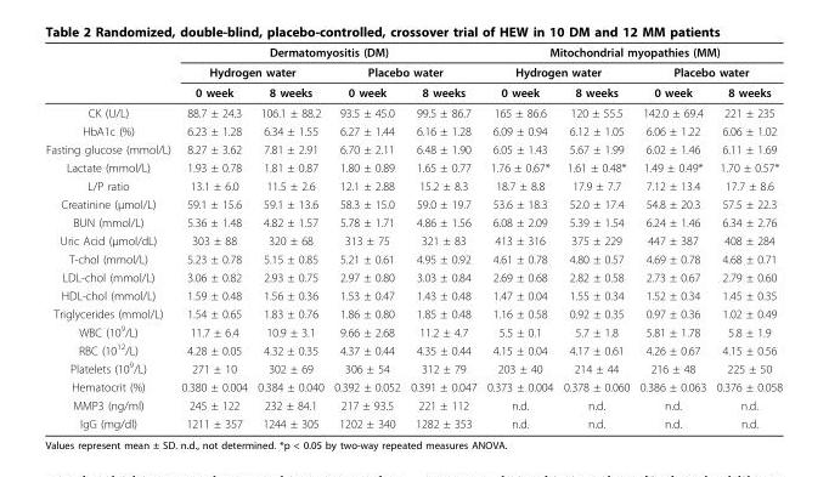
<table><thead><tr><td rowspan="3"></td><td colspan="4">Dermatomyositis (DM)</td><td colspan="4">Mitochondrial myopathies (MM)</td></tr><tr><td colspan="2">Hydrogen water</td><td colspan="2">Placebo water</td><td colspan="2">Hydrogen water</td><td colspan="2">Placebo water</td></tr><tr><td>0 week</td><td>8 weeks</td><td>0 week</td><td>8 weeks</td><td>0 week</td><td>8 weeks</td><td>0 week</td><td>8 weeks</td></tr></thead><tbody><tr><td>CK (U/L)</td><td>88.7 ± 24.3</td><td>106.1 ± 88.2</td><td>93.5 ± 45.0</td><td>99.5 ± 86.7</td><td>165 ± 86.6</td><td>120 ± 55.5</td><td>142.0 ± 69.4</td><td>221 ± 235</td></tr><tr><td>HbA1c (%)</td><td>6.23 ± 1.28</td><td>6.34 ± 1.55</td><td>6.27 ± 1.44</td><td>6.16 ± 1.28</td><td>6.09 ± 0.94</td><td>6.12 ± 1.05</td><td>6.06 ± 1.22</td><td>6.06 ± 1.02</td></tr><tr><td>Fasting glucose (mmol/L)</td><td>8.27 ± 3.62</td><td>7.81 ± 2.91</td><td>6.70 ± 2.11</td><td>6.48 ± 1.90</td><td>6.05 ± 1.43</td><td>5.67 ± 1.99</td><td>6.02 ± 1.46</td><td>6.11 ± 1.69</td></tr><tr><td>Lactate (mmol/L)</td><td>1.93 ± 0.78</td><td>1.81 ± 0.87</td><td>1.80 ± 0.89</td><td>1.65 ± 0.77</td><td>1.76 ± 0.67*</td><td>1.61 ± 0.48*</td><td>1.49 ± 0.49*</td><td>1.70 ± 0.57*</td></tr><tr><td>L/P ratio</td><td>13.1 ± 6.0</td><td>11.5 ± 2.6</td><td>12.1 ± 2.88</td><td>15.2 ± 8.3</td><td>18.7 ± 8.8</td><td>17.9 ± 7.7</td><td>7.12 ± 13.4</td><td>17.7 ± 8.6</td></tr><tr><td>Creatinine (μmol/L)</td><td>59.1 ± 15.6</td><td>59.1 ± 13.6</td><td>58.3 ± 15.0</td><td>59.0 ± 19.7</td><td>53.6 ± 18.3</td><td>52.0 ± 17.4</td><td>54.8 ± 20.3</td><td>57.5 ± 22.3</td></tr><tr><td>BUN (mmol/L)</td><td>5.36 ± 1.48</td><td>4.82 ± 1.57</td><td>5.78 ± 1.71</td><td>4.86 ± 1.56</td><td>6.08 ± 2.09</td><td>5.39 ± 1.54</td><td>6.24 ± 1.46</td><td>6.34 ± 2.76</td></tr><tr><td>Uric Acid (μmol/dL)</td><td>303 ± 88</td><td>320 ± 68</td><td>313 ± 75</td><td>321 ± 83</td><td>413 ± 316</td><td>375 ± 229</td><td>447 ± 387</td><td>408 ± 284</td></tr><tr><td>T-chol (mmol/L)</td><td>5.23 ± 0.78</td><td>5.15 ± 0.85</td><td>5.21 ± 0.61</td><td>4.95 ± 0.92</td><td>4.61 ± 0.78</td><td>4.80 ± 0.57</td><td>4.69 ± 0.78</td><td>4.68 ± 0.71</td></tr><tr><td>LDL-chol (mmol/L)</td><td>3.06 ± 0.82</td><td>2.93 ± 0.75</td><td>2.97 ± 0.80</td><td>3.03 ± 0.84</td><td>2.69 ± 0.68</td><td>2.82 ± 0.58</td><td>2.73 ± 0.67</td><td>2.79 ± 0.60</td></tr><tr><td>HDL-chol (mmol/L)</td><td>1.59 ± 0.48</td><td>1.56 ± 0.36</td><td>1.53 ± 0.47</td><td>1.43 ± 0.48</td><td>1.47 ± 0.04</td><td>1.55 ± 0.34</td><td>1.52 ± 0.34</td><td>1.45 ± 0.35</td></tr><tr><td>Triglycerides (mmol/L)</td><td>1.54 ± 0.65</td><td>1.83 ± 0.76</td><td>1.86 ± 0.80</td><td>1.85 ± 0.48</td><td>1.16 ± 0.58</td><td>0.92 ± 0.35</td><td>0.97 ± 0.36</td><td>1.02 ± 0.49</td></tr><tr><td>WBC (10<sup>9</sup>/L)</td><td>11.7 ± 6.4</td><td>10.9 ± 3.1</td><td>9.66 ± 2.68</td><td>11.2 ± 4.7</td><td>5.5 ± 0.1</td><td>5.7 ± 1.8</td><td>5.81 ± 1.78</td><td>5.8 ± 1.9</td></tr><tr><td>RBC (10<sup>12</sup>/L)</td><td>4.28 ± 0.05</td><td>4.32 ± 0.35</td><td>4.37 ± 0.44</td><td>4.35 ± 0.44</td><td>4.15 ± 0.04</td><td>4.17 ± 0.61</td><td>4.26 ± 0.67</td><td>4.15 ± 0.56</td></tr><tr><td>Platelets (10<sup>9</sup>/L)</td><td>271 ± 10</td><td>302 ± 69</td><td>306 ± 54</td><td>312 ± 79</td><td>203 ± 40</td><td>214 ± 44</td><td>216 ± 48</td><td>225 ± 50</td></tr><tr><td>Hematocrit (%)</td><td>0.380 ± 0.004</td><td>0.384 ± 0.040</td><td>0.392 ± 0.052</td><td>0.391 ± 0.047</td><td>0.373 ± 0.004</td><td>0.378 ± 0.060</td><td>0.386 ± 0.063</td><td>0.376 ± 0.058</td></tr><tr><td>MMP3 (ng/ml)</td><td>245 ± 122</td><td>232 ± 84.1</td><td>217 ± 93.5</td><td>221 ± 112</td><td>n.d.</td><td>n.d.</td><td>n.d.</td><td>n.d.</td></tr><tr><td>IgG (mg/dl)</td><td>1211 ± 357</td><td>1244 ± 305</td><td>1202 ± 340</td><td>1282 ± 353</td><td>n.d.</td><td>n.d.</td><td>n.d.</td><td>n.d.</td></tr></tbody></table>